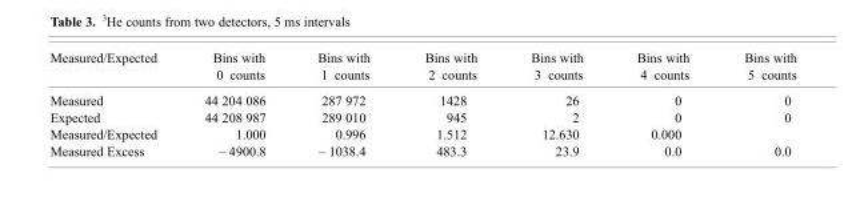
<table><thead><tr><td>Measured/Expected</td><td>Bins with 0 counts</td><td>Bins with 1 counts</td><td>Bins with 2 counts</td><td>Bins with 3 counts</td><td>Bins with 4 counts</td><td>Bins with 5 counts</td></tr></thead><tbody><tr><td>Measured</td><td>44 204 086</td><td>287 972</td><td>1428</td><td>26</td><td>0</td><td>0</td></tr><tr><td>Expected</td><td>44 208 987</td><td>289 010</td><td>945</td><td>2</td><td>0</td><td>0</td></tr><tr><td>Measured/Expected</td><td>1.000</td><td>0.996</td><td>1.512</td><td>12.630</td><td>0.000</td><td></td></tr><tr><td>Measured Excess</td><td>– 4900.8</td><td>– 1038.4</td><td>483.3</td><td>23.9</td><td>0.0</td><td>0.0</td></tr></tbody></table>